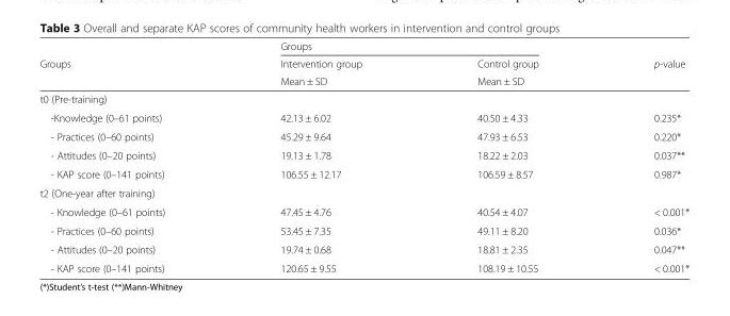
<table><thead><tr><td rowspan="3">Groups</td><td colspan="2">Groups</td><td rowspan="3">p-value</td></tr><tr><td rowspan="2">Intervention group Mean ± SD</td><td rowspan="2">Control group Mean ± SD</td></tr><tr></tr></thead><tbody><tr><td colspan="4">t0 (Pre-training)</td></tr><tr><td>-Knowledge (0–61 points)</td><td>42.13 ± 6.02</td><td>40.50 ± 4.33</td><td>0.235*</td></tr><tr><td>- Practices (0–60 points)</td><td>45.29 ± 9.64</td><td>47.93 ± 6.53</td><td>0.220*</td></tr><tr><td>- Attitudes (0–20 points)</td><td>19.13 ± 1.78</td><td>18.22 ± 2.03</td><td>0.037**</td></tr><tr><td>- KAP score (0–141 points)</td><td>106.55 ± 12.17</td><td>106.59 ± 8.57</td><td>0.987*</td></tr><tr><td colspan="4">t2 (One-year after training)</td></tr><tr><td>- Knowledge (0–61 points)</td><td>47.45 ± 4.76</td><td>40.54 ± 4.07</td><td>&lt; 0.001*</td></tr><tr><td>- Practices (0–60 points)</td><td>53.45 ± 7.35</td><td>49.11 ± 8.20</td><td>0.036*</td></tr><tr><td>- Attitudes (0–20 points)</td><td>19.74 ± 0.68</td><td>18.81 ± 2.35</td><td>0.047**</td></tr><tr><td>- KAP score (0–141 points)</td><td>120.65 ± 9.55</td><td>108.19 ± 10.55</td><td>&lt; 0.001*</td></tr></tbody></table>